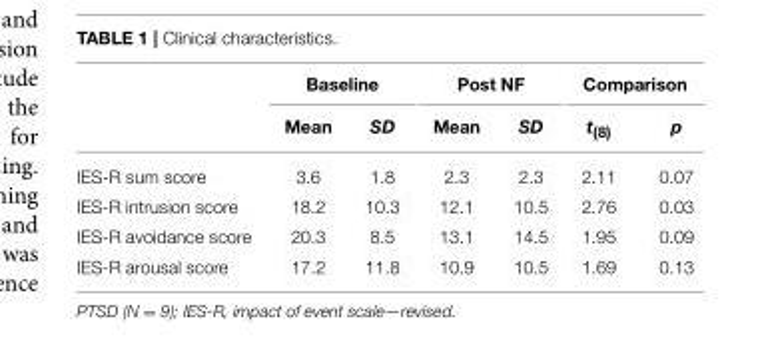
<table><thead><tr><td rowspan="2"></td><td colspan="2">Baseline</td><td colspan="2">Post NF</td><td colspan="2">Comparison</td></tr><tr><td>Mean</td><td>SD</td><td>Mean</td><td>SD</td><td>t<sub>(8)</sub></td><td>p</td></tr></thead><tbody><tr><td>IES-R sum score</td><td>3.6</td><td>1.8</td><td>2.3</td><td>2.3</td><td>2.11</td><td>0.07</td></tr><tr><td>IES-R intrusion score</td><td>18.2</td><td>10.3</td><td>12.1</td><td>10.5</td><td>2.76</td><td>0.03</td></tr><tr><td>IES-R avoidance score</td><td>20.3</td><td>8.5</td><td>13.1</td><td>14.5</td><td>1.95</td><td>0.09</td></tr><tr><td>IES-R arousal score</td><td>17.2</td><td>11.8</td><td>10.9</td><td>10.5</td><td>1.69</td><td>0.13</td></tr></tbody></table>